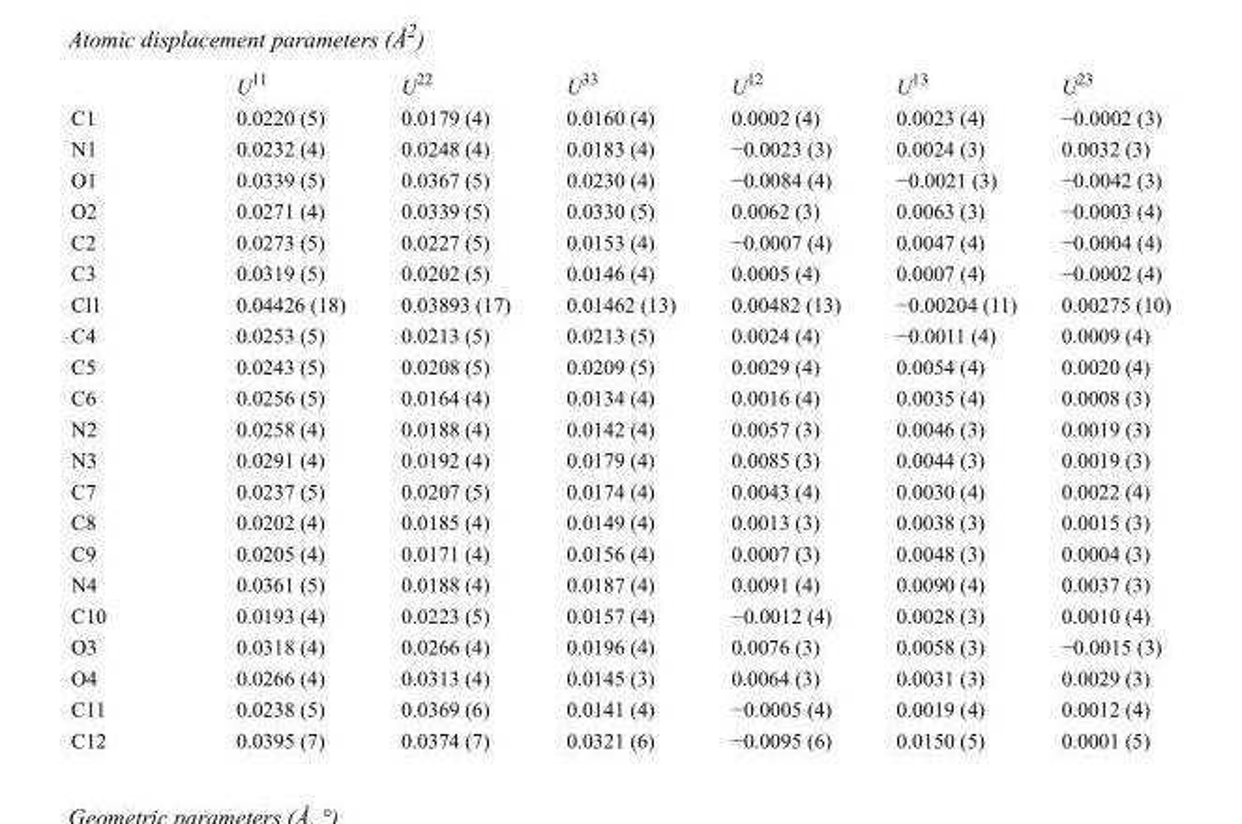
<table><thead><tr><td></td><td>U<sup>11</sup></td><td>U<sup>22</sup></td><td>U<sup>33</sup></td><td>U<sup>12</sup></td><td>U<sup>13</sup></td><td>U<sup>23</sup></td></tr></thead><tbody><tr><td>C1</td><td>0.0220 (5)</td><td>0.0179 (4)</td><td>0.0160 (4)</td><td>0.0002 (4)</td><td>0.0023 (4)</td><td>−0.0002 (3)</td></tr><tr><td>N1</td><td>0.0232 (4)</td><td>0.0248 (4)</td><td>0.0183 (4)</td><td>−0.0023 (3)</td><td>0.0024 (3)</td><td>0.0032 (3)</td></tr><tr><td>O1</td><td>0.0339 (5)</td><td>0.0367 (5)</td><td>0.0230 (4)</td><td>−0.0084 (4)</td><td>−0.0021 (3)</td><td>−0.0042 (3)</td></tr><tr><td>O2</td><td>0.0271 (4)</td><td>0.0339 (5)</td><td>0.0330 (5)</td><td>0.0062 (3)</td><td>0.0063 (3)</td><td>−0.0003 (4)</td></tr><tr><td>C2</td><td>0.0273 (5)</td><td>0.0227 (5)</td><td>0.0153 (4)</td><td>−0.0007 (4)</td><td>0.0047 (4)</td><td>−0.0004 (4)</td></tr><tr><td>C3</td><td>0.0319 (5)</td><td>0.0202 (5)</td><td>0.0146 (4)</td><td>0.0005 (4)</td><td>0.0007 (4)</td><td>−0.0002 (4)</td></tr><tr><td>Cl1</td><td>0.04426 (18)</td><td>0.03893 (17)</td><td>0.01462 (13)</td><td>0.00482 (13)</td><td>−0.00204 (11)</td><td>0.00275 (10)</td></tr><tr><td>C4</td><td>0.0253 (5)</td><td>0.0213 (5)</td><td>0.0213 (5)</td><td>0.0024 (4)</td><td>−0.0011 (4)</td><td>0.0009 (4)</td></tr><tr><td>C5</td><td>0.0243 (5)</td><td>0.0208 (5)</td><td>0.0209 (5)</td><td>0.0029 (4)</td><td>0.0054 (4)</td><td>0.0020 (4)</td></tr><tr><td>C6</td><td>0.0256 (5)</td><td>0.0164 (4)</td><td>0.0134 (4)</td><td>0.0016 (4)</td><td>0.0035 (4)</td><td>0.0008 (3)</td></tr><tr><td>N2</td><td>0.0258 (4)</td><td>0.0188 (4)</td><td>0.0142 (4)</td><td>0.0057 (3)</td><td>0.0046 (3)</td><td>0.0019 (3)</td></tr><tr><td>N3</td><td>0.0291 (4)</td><td>0.0192 (4)</td><td>0.0179 (4)</td><td>0.0085 (3)</td><td>0.0044 (3)</td><td>0.0019 (3)</td></tr><tr><td>C7</td><td>0.0237 (5)</td><td>0.0207 (5)</td><td>0.0174 (4)</td><td>0.0043 (4)</td><td>0.0030 (4)</td><td>0.0022 (4)</td></tr><tr><td>C8</td><td>0.0202 (4)</td><td>0.0185 (4)</td><td>0.0149 (4)</td><td>0.0013 (3)</td><td>0.0038 (3)</td><td>0.0015 (3)</td></tr><tr><td>C9</td><td>0.0205 (4)</td><td>0.0171 (4)</td><td>0.0156 (4)</td><td>0.0007 (3)</td><td>0.0048 (3)</td><td>0.0004 (3)</td></tr><tr><td>N4</td><td>0.0361 (5)</td><td>0.0188 (4)</td><td>0.0187 (4)</td><td>0.0091 (4)</td><td>0.0090 (4)</td><td>0.0037 (3)</td></tr><tr><td>C10</td><td>0.0193 (4)</td><td>0.0223 (5)</td><td>0.0157 (4)</td><td>−0.0012 (4)</td><td>0.0028 (3)</td><td>0.0010 (4)</td></tr><tr><td>O3</td><td>0.0318 (4)</td><td>0.0266 (4)</td><td>0.0196 (4)</td><td>0.0076 (3)</td><td>0.0058 (3)</td><td>−0.0015 (3)</td></tr><tr><td>O4</td><td>0.0266 (4)</td><td>0.0313 (4)</td><td>0.0145 (3)</td><td>0.0064 (3)</td><td>0.0031 (3)</td><td>0.0029 (3)</td></tr><tr><td>C11</td><td>0.0238 (5)</td><td>0.0369 (6)</td><td>0.0141 (4)</td><td>−0.0005 (4)</td><td>0.0019 (4)</td><td>0.0012 (4)</td></tr><tr><td>C12</td><td>0.0395 (7)</td><td>0.0374 (7)</td><td>0.0321 (6)</td><td>−0.0095 (6)</td><td>0.0150 (5)</td><td>0.0001 (5)</td></tr></tbody></table>